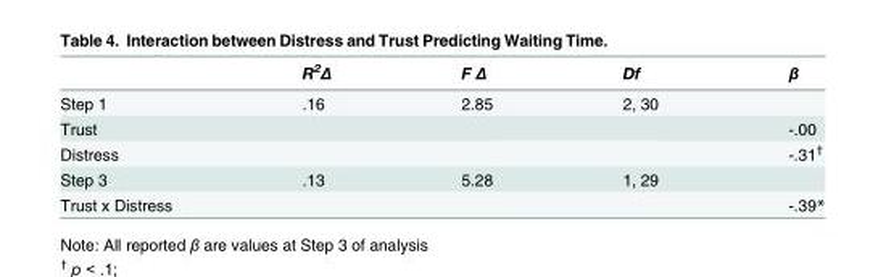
<table><thead><tr><td></td><td>R<sup>2</sup>Δ</td><td>F Δ</td><td>Df</td><td>β</td></tr></thead><tbody><tr><td>Step 1</td><td>.16</td><td>2.85</td><td>2, 30</td><td></td></tr><tr><td>Trust</td><td></td><td></td><td></td><td>-.00</td></tr><tr><td>Distress</td><td></td><td></td><td></td><td>-.31<sup>†</sup></td></tr><tr><td>Step 3</td><td>.13</td><td>5.28</td><td>1, 29</td><td></td></tr><tr><td>Trust x Distress</td><td></td><td></td><td></td><td>-.39*</td></tr></tbody></table>